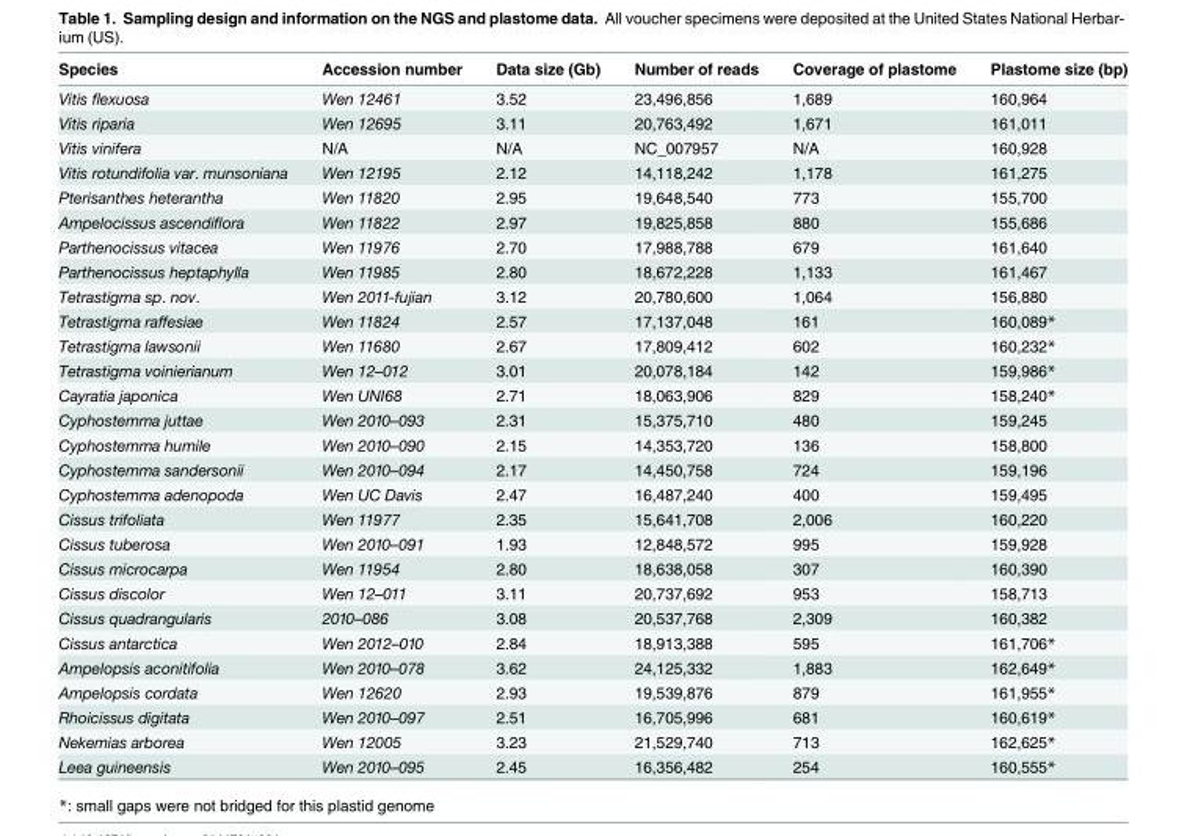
<table><thead><tr><td>Species</td><td>Accession number</td><td>Data size (Gb)</td><td>Number of reads</td><td>Coverage of plastome</td><td>Plastome size (bp)</td></tr></thead><tbody><tr><td>Vitis flexuosa</td><td>Wen 12461</td><td>3.52</td><td>23,496,856</td><td>1,689</td><td>160,964</td></tr><tr><td>Vitis riparia</td><td>Wen 12695</td><td>3.11</td><td>20,763,492</td><td>1,671</td><td>161,011</td></tr><tr><td>Vitis vinifera</td><td>N/A</td><td>N/A</td><td>NC_007957</td><td>N/A</td><td>160,928</td></tr><tr><td>Vitis rotundifolia var. munsoniana</td><td>Wen 12195</td><td>2.12</td><td>14,118,242</td><td>1,178</td><td>161,275</td></tr><tr><td>Pterisanthes heterantha</td><td>Wen 11820</td><td>2.95</td><td>19,648,540</td><td>773</td><td>155,700</td></tr><tr><td>Ampelocissus ascendiflora</td><td>Wen 11822</td><td>2.97</td><td>19,825,858</td><td>880</td><td>155,686</td></tr><tr><td>Parthenocissus vitacea</td><td>Wen 11976</td><td>2.70</td><td>17,988,788</td><td>679</td><td>161,640</td></tr><tr><td>Parthenocissus heptaphylla</td><td>Wen 11985</td><td>2.80</td><td>18,672,228</td><td>1,133</td><td>161,467</td></tr><tr><td>Tetrastigma sp. nov.</td><td>Wen 2011-fujian</td><td>3.12</td><td>20,780,600</td><td>1,064</td><td>156,880</td></tr><tr><td>Tetrastigma raffesiae</td><td>Wen 11824</td><td>2.57</td><td>17,137,048</td><td>161</td><td>160,089*</td></tr><tr><td>Tetrastigma lawsonii</td><td>Wen 11680</td><td>2.67</td><td>17,809,412</td><td>602</td><td>160,232*</td></tr><tr><td>Tetrastigma voinierianum</td><td>Wen 12–012</td><td>3.01</td><td>20,078,184</td><td>142</td><td>159,986*</td></tr><tr><td>Cayratia japonica</td><td>Wen UNI68</td><td>2.71</td><td>18,063,906</td><td>829</td><td>158,240*</td></tr><tr><td>Cyphostemma juttae</td><td>Wen 2010–093</td><td>2.31</td><td>15,375,710</td><td>480</td><td>159,245</td></tr><tr><td>Cyphostemma humile</td><td>Wen 2010–090</td><td>2.15</td><td>14,353,720</td><td>136</td><td>158,800</td></tr><tr><td>Cyphostemma sandersonii</td><td>Wen 2010–094</td><td>2.17</td><td>14,450,758</td><td>724</td><td>159,196</td></tr><tr><td>Cyphostemma adenopoda</td><td>Wen UC Davis</td><td>2.47</td><td>16,487,240</td><td>400</td><td>159,495</td></tr><tr><td>Cissus trifoliata</td><td>Wen 11977</td><td>2.35</td><td>15,641,708</td><td>2,006</td><td>160,220</td></tr><tr><td>Cissus tuberosa</td><td>Wen 2010–091</td><td>1.93</td><td>12,848,572</td><td>995</td><td>159,928</td></tr><tr><td>Cissus microcarpa</td><td>Wen 11954</td><td>2.80</td><td>18,638,058</td><td>307</td><td>160,390</td></tr><tr><td>Cissus discolor</td><td>Wen 12–011</td><td>3.11</td><td>20,737,692</td><td>953</td><td>158,713</td></tr><tr><td>Cissus quadrangularis</td><td>2010–086</td><td>3.08</td><td>20,537,768</td><td>2,309</td><td>160,382</td></tr><tr><td>Cissus antarctica</td><td>Wen 2012–010</td><td>2.84</td><td>18,913,388</td><td>595</td><td>161,706*</td></tr><tr><td>Ampelopsis aconitifolia</td><td>Wen 2010–078</td><td>3.62</td><td>24,125,332</td><td>1,883</td><td>162,649*</td></tr><tr><td>Ampelopsis cordata</td><td>Wen 12620</td><td>2.93</td><td>19,539,876</td><td>879</td><td>161,955*</td></tr><tr><td>Rhoicissus digitata</td><td>Wen 2010–097</td><td>2.51</td><td>16,705,996</td><td>681</td><td>160,619*</td></tr><tr><td>Nekemias arborea</td><td>Wen 12005</td><td>3.23</td><td>21,529,740</td><td>713</td><td>162,625*</td></tr><tr><td>Leea guineensis</td><td>Wen 2010–095</td><td>2.45</td><td>16,356,482</td><td>254</td><td>160,555*</td></tr></tbody></table>